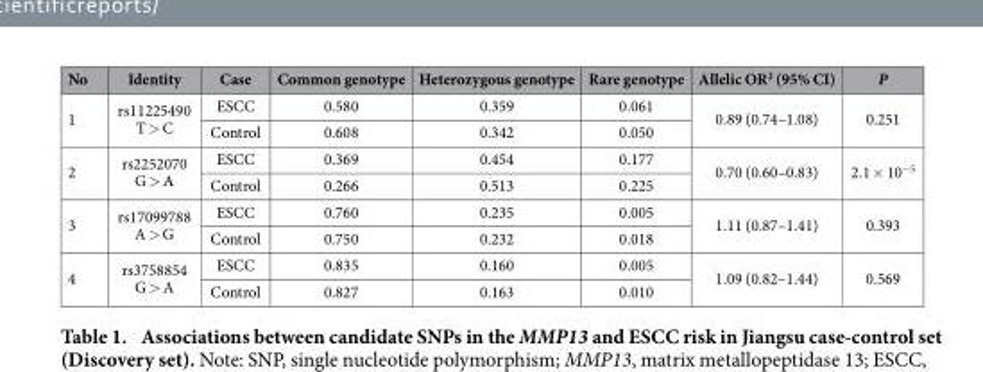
<table><thead><tr><td>No</td><td>Identity</td><td>Case</td><td>Common genotype</td><td>Heterozygous genotype</td><td>Rare genotype</td><td>Allelic OR<sup>2</sup> (95% CI)</td><td>P</td></tr></thead><tbody><tr><td rowspan="2">1</td><td rowspan="2">rs11225490 T &gt; C</td><td>ESCC</td><td>0.580</td><td>0.359</td><td>0.061</td><td rowspan="2">0.89 (0.74–1.08)</td><td rowspan="2">0.251</td></tr><tr><td>Control</td><td>0.608</td><td>0.342</td><td>0.050</td></tr><tr><td rowspan="2">2</td><td rowspan="2">rs2252070 G &gt; A</td><td>ESCC</td><td>0.369</td><td>0.454</td><td>0.177</td><td rowspan="2">0.70 (0.60–0.83)</td><td rowspan="2">2.1 × 10<sup>−5</sup></td></tr><tr><td>Control</td><td>0.266</td><td>0.513</td><td>0.225</td></tr><tr><td rowspan="2">3</td><td rowspan="2">rs17099788 A &gt; G</td><td>ESCC</td><td>0.760</td><td>0.235</td><td>0.005</td><td rowspan="2">1.11 (0.87–1.41)</td><td rowspan="2">0.393</td></tr><tr><td>Control</td><td>0.750</td><td>0.232</td><td>0.018</td></tr><tr><td rowspan="2">4</td><td rowspan="2">rs3758854 G &gt; A</td><td>ESCC</td><td>0.835</td><td>0.160</td><td>0.005</td><td rowspan="2">1.09 (0.82–1.44)</td><td rowspan="2">0.569</td></tr><tr><td>Control</td><td>0.827</td><td>0.163</td><td>0.010</td></tr></tbody></table>